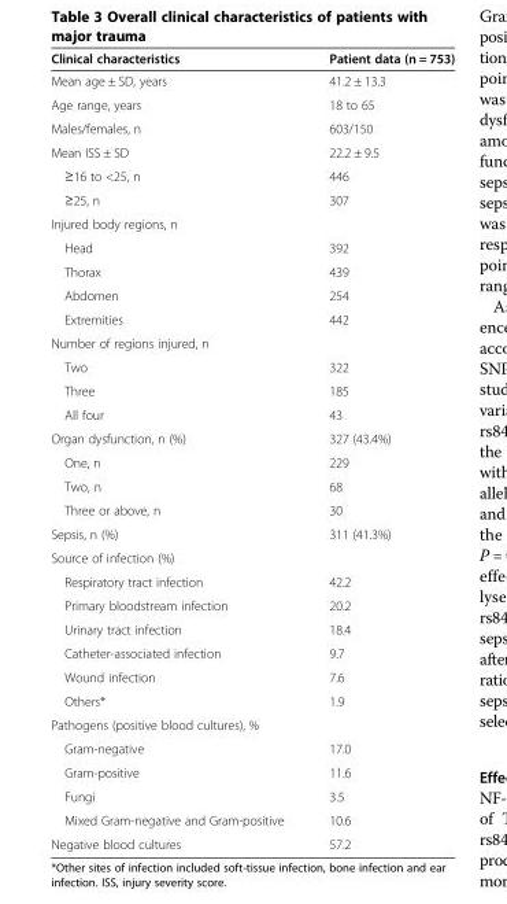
<table><thead><tr><td>Clinical characteristics</td><td>Patient data (n = 753)</td></tr></thead><tbody><tr><td>Mean age ± SD, years</td><td>41.2 ± 13.3</td></tr><tr><td>Age range, years</td><td>18 to 65</td></tr><tr><td>Males/females, n</td><td>603/150</td></tr><tr><td>Mean ISS ± SD</td><td>22.2 ± 9.5</td></tr><tr><td>≥16 to &lt;25, n</td><td>446</td></tr><tr><td>≥25, n</td><td>307</td></tr><tr><td colspan="2">Injured body regions, n</td></tr><tr><td>Head</td><td>392</td></tr><tr><td>Thorax</td><td>439</td></tr><tr><td>Abdomen</td><td>254</td></tr><tr><td>Extremities</td><td>442</td></tr><tr><td colspan="2">Number of regions injured, n</td></tr><tr><td>Two</td><td>322</td></tr><tr><td>Three</td><td>185</td></tr><tr><td>All four</td><td>43</td></tr><tr><td>Organ dysfunction, n (%)</td><td>327 (43.4%)</td></tr><tr><td>One, n</td><td>229</td></tr><tr><td>Two, n</td><td>68</td></tr><tr><td>Three or above, n</td><td>30</td></tr><tr><td>Sepsis, n (%)</td><td>311 (41.3%)</td></tr><tr><td colspan="2">Source of infection (%)</td></tr><tr><td>Respiratory tract infection</td><td>42.2</td></tr><tr><td>Primary bloodstream infection</td><td>20.2</td></tr><tr><td>Urinary tract infection</td><td>18.4</td></tr><tr><td>Catheter-associated infection</td><td>9.7</td></tr><tr><td>Wound infection</td><td>7.6</td></tr><tr><td>Others*</td><td>1.9</td></tr><tr><td colspan="2">Pathogens (positive blood cultures), %</td></tr><tr><td>Gram-negative</td><td>17.0</td></tr><tr><td>Gram-positive</td><td>11.6</td></tr><tr><td>Fungi</td><td>3.5</td></tr><tr><td>Mixed Gram-negative and Gram-positive</td><td>10.6</td></tr><tr><td>Negative blood cultures</td><td>57.2</td></tr></tbody></table>